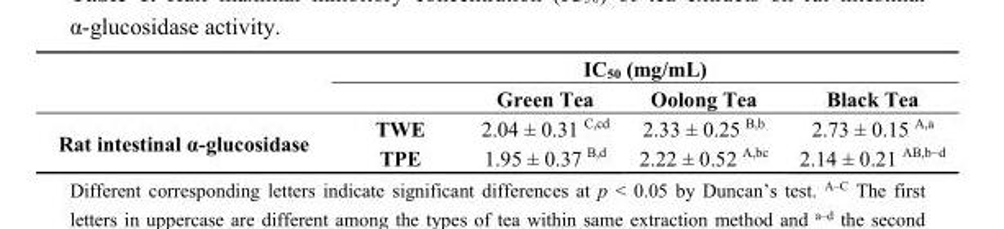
<table><thead><tr><td rowspan="2"></td><td colspan="4">IC<sub>50</sub> (mg/mL)</td></tr><tr><td></td><td>Green Tea</td><td>Oolong Tea</td><td>Black Tea</td></tr></thead><tbody><tr><td rowspan="2">Rat intestinal α-glucosidase</td><td>TWE</td><td>2.04 ± 0.31 <sup>C,cd</sup></td><td>2.33 ± 0.25 <sup>B,b</sup></td><td>2.73 ± 0.15 <sup>A,a</sup></td></tr><tr><td>TPE</td><td>1.95 ± 0.37 <sup>B,d</sup></td><td>2.22 ± 0.52 <sup>A,bc</sup></td><td>2.14 ± 0.21 <sup>AB,b−d</sup></td></tr></tbody></table>